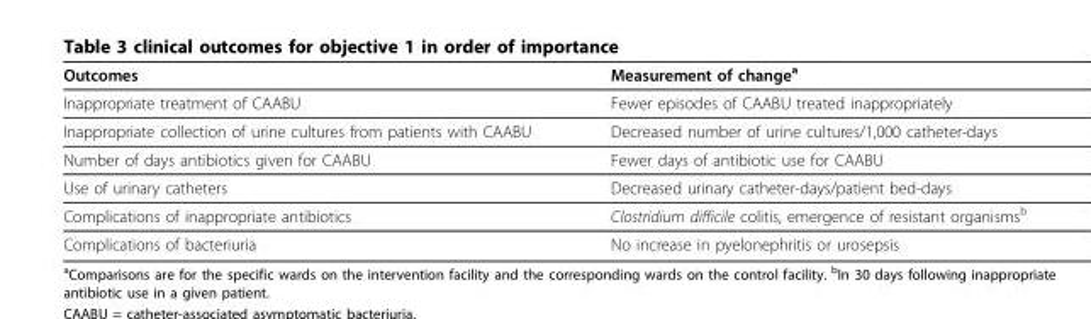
<table><thead><tr><td>Outcomes</td><td>Measurement of change<sup>a</sup></td></tr></thead><tbody><tr><td>Inappropriate treatment of CAABU</td><td>Fewer episodes of CAABU treated inappropriately</td></tr><tr><td>Inappropriate collection of urine cultures from patients with CAABU</td><td>Decreased number of urine cultures/1,000 catheter-days</td></tr><tr><td>Number of days antibiotics given for CAABU</td><td>Fewer days of antibiotic use for CAABU</td></tr><tr><td>Use of urinary catheters</td><td>Decreased urinary catheter-days/patient bed-days</td></tr><tr><td>Complications of inappropriate antibiotics</td><td>Clostridium difficile colitis, emergence of resistant organisms<sup>b</sup></td></tr><tr><td>Complications of bacteriuria</td><td>No increase in pyelonephritis or urosepsis</td></tr></tbody></table>